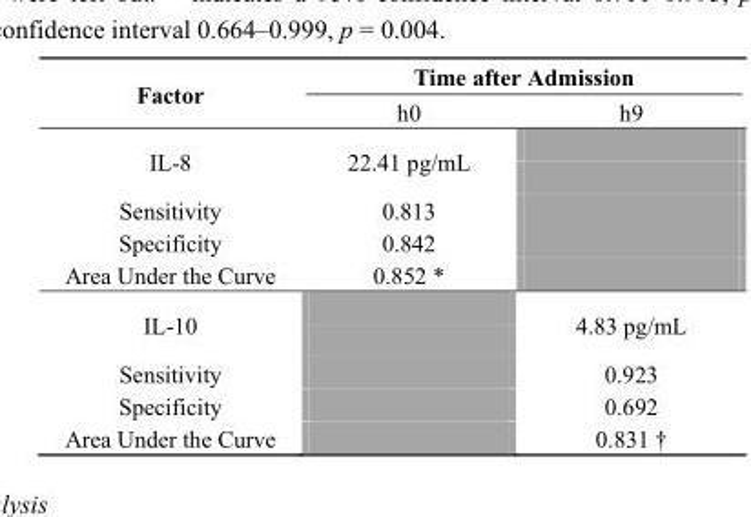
<table><thead><tr><td rowspan="2">Factor</td><td colspan="2">Time after Admission</td></tr><tr><td>h0</td><td>h9</td></tr></thead><tbody><tr><td>IL-8</td><td>22.41 pg/mL</td><td></td></tr><tr><td>Sensitivity</td><td>0.813</td><td></td></tr><tr><td>Specificity</td><td>0.842</td><td></td></tr><tr><td>Area Under the Curve</td><td>0.852 *</td><td></td></tr><tr><td>IL-10</td><td></td><td>4.83 pg/mL</td></tr><tr><td>Sensitivity</td><td></td><td>0.923</td></tr><tr><td>Specificity</td><td></td><td>0.692</td></tr><tr><td>Area Under the Curve</td><td></td><td>0.831 †</td></tr></tbody></table>